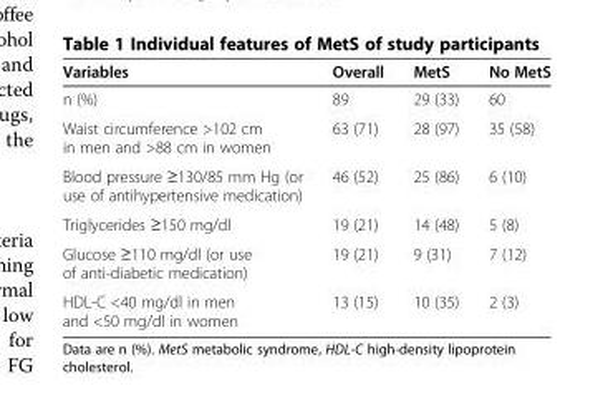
<table><thead><tr><td>Variables</td><td>Overall</td><td>MetS</td><td>No MetS</td></tr></thead><tbody><tr><td>n (%)</td><td>89</td><td>29 (33)</td><td>60</td></tr><tr><td>Waist circumference &gt;102 cm in men and &gt;88 cm in women</td><td>63 (71)</td><td>28 (97)</td><td>35 (58)</td></tr><tr><td>Blood pressure ≥130/85 mm Hg (or use of antihypertensive medication)</td><td>46 (52)</td><td>25 (86)</td><td>6 (10)</td></tr><tr><td>Triglycerides ≥150 mg/dl</td><td>19 (21)</td><td>14 (48)</td><td>5 (8)</td></tr><tr><td>Glucose ≥110 mg/dl (or use of anti-diabetic medication)</td><td>19 (21)</td><td>9 (31)</td><td>7 (12)</td></tr><tr><td>HDL-C &lt;40 mg/dl in men and &lt;50 mg/dl in women</td><td>13 (15)</td><td>10 (35)</td><td>2 (3)</td></tr></tbody></table>